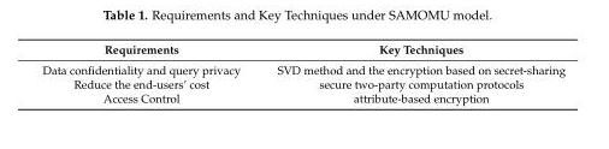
<table><thead><tr><td>Requirements</td><td>Key Techniques</td></tr></thead><tbody><tr><td>Data confidentiality and query privacy</td><td>SVD method and the encryption based on secret-sharing</td></tr><tr><td>Reduce the end-users’ cost</td><td>secure two-party computation protocols</td></tr><tr><td>Access Control</td><td>attribute-based encryption</td></tr></tbody></table>